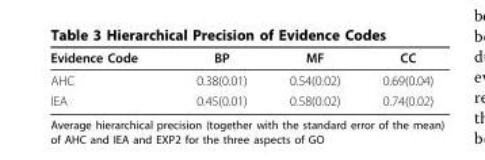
<table><thead><tr><td>Evidence Code</td><td>BP</td><td>MF</td><td>CC</td></tr></thead><tbody><tr><td>AHC</td><td>0.38(0.01)</td><td>0.54(0.02)</td><td>0.69(0.04)</td></tr><tr><td>IEA</td><td>0.45(0.01)</td><td>0.58(0.02)</td><td>0.74(0.02)</td></tr></tbody></table>